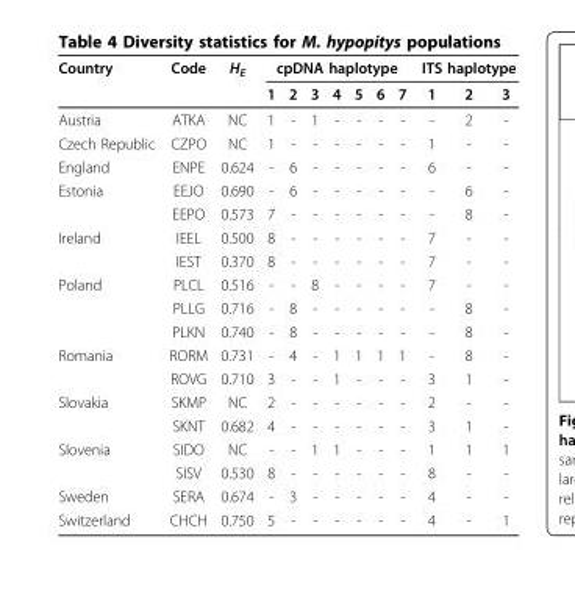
<table><thead><tr><td rowspan="2">Country</td><td rowspan="2">Code</td><td rowspan="2">H<sub>E</sub></td><td colspan="7">cpDNA haplotype</td><td colspan="3">ITS haplotype</td></tr><tr><td>1</td><td>2</td><td>3</td><td>4</td><td>5</td><td>6</td><td>7</td><td>1</td><td>2</td><td>3</td></tr></thead><tbody><tr><td>Austria</td><td>ATKA</td><td>NC</td><td>1</td><td>-</td><td>1</td><td>-</td><td>-</td><td>-</td><td>-</td><td>-</td><td>2</td><td>-</td></tr><tr><td>Czech Republic</td><td>CZPO</td><td>NC</td><td>1</td><td>-</td><td>-</td><td>-</td><td>-</td><td>-</td><td>-</td><td>1</td><td>-</td><td>-</td></tr><tr><td>England</td><td>ENPE</td><td>0.624</td><td>-</td><td>6</td><td>-</td><td>-</td><td>-</td><td>-</td><td>-</td><td>6</td><td>-</td><td>-</td></tr><tr><td rowspan="2">Estonia</td><td>EEJO</td><td>0.690</td><td>-</td><td>6</td><td>-</td><td>-</td><td>-</td><td>-</td><td>-</td><td>-</td><td>6</td><td>-</td></tr><tr><td>EEPO</td><td>0.573</td><td>7</td><td>-</td><td>-</td><td>-</td><td>-</td><td>-</td><td>-</td><td>-</td><td>8</td><td>-</td></tr><tr><td rowspan="2">Ireland</td><td>IEEL</td><td>0.500</td><td>8</td><td>-</td><td>-</td><td>-</td><td>-</td><td>-</td><td>-</td><td>7</td><td>-</td><td>-</td></tr><tr><td>IEST</td><td>0.370</td><td>8</td><td>-</td><td>-</td><td>-</td><td>-</td><td>-</td><td>-</td><td>7</td><td>-</td><td>-</td></tr><tr><td rowspan="3">Poland</td><td>PLCL</td><td>0.516</td><td>-</td><td>-</td><td>8</td><td>-</td><td>-</td><td>-</td><td>-</td><td>7</td><td>-</td><td>-</td></tr><tr><td>PLLG</td><td>0.716</td><td>-</td><td>8</td><td>-</td><td>-</td><td>-</td><td>-</td><td>-</td><td>-</td><td>8</td><td>-</td></tr><tr><td>PLKN</td><td>0.740</td><td>-</td><td>8</td><td>-</td><td>-</td><td>-</td><td>-</td><td>-</td><td>-</td><td>8</td><td>-</td></tr><tr><td rowspan="2">Romania</td><td>RORM</td><td>0.731</td><td>-</td><td>4</td><td>-</td><td>1</td><td>1</td><td>1</td><td>1</td><td>-</td><td>8</td><td>-</td></tr><tr><td>ROVG</td><td>0.710</td><td>3</td><td>-</td><td>-</td><td>1</td><td>-</td><td>-</td><td>-</td><td>3</td><td>1</td><td>-</td></tr><tr><td rowspan="2">Slovakia</td><td>SKMP</td><td>NC</td><td>2</td><td>-</td><td>-</td><td>-</td><td>-</td><td>-</td><td>-</td><td>2</td><td>-</td><td>-</td></tr><tr><td>SKNT</td><td>0.682</td><td>4</td><td>-</td><td>-</td><td>-</td><td>-</td><td>-</td><td>-</td><td>3</td><td>1</td><td>-</td></tr><tr><td rowspan="2">Slovenia</td><td>SIDO</td><td>NC</td><td>-</td><td>-</td><td>1</td><td>1</td><td>-</td><td>-</td><td>-</td><td>1</td><td>1</td><td>1</td></tr><tr><td>SISV</td><td>0.530</td><td>8</td><td>-</td><td>-</td><td>-</td><td>-</td><td>-</td><td>-</td><td>8</td><td>-</td><td>-</td></tr><tr><td>Sweden</td><td>SERA</td><td>0.674</td><td>-</td><td>3</td><td>-</td><td>-</td><td>-</td><td>-</td><td>-</td><td>4</td><td>-</td><td>-</td></tr><tr><td>Switzerland</td><td>CHCH</td><td>0.750</td><td>5</td><td>-</td><td>-</td><td>-</td><td>-</td><td>-</td><td>-</td><td>4</td><td>-</td><td>1</td></tr></tbody></table>